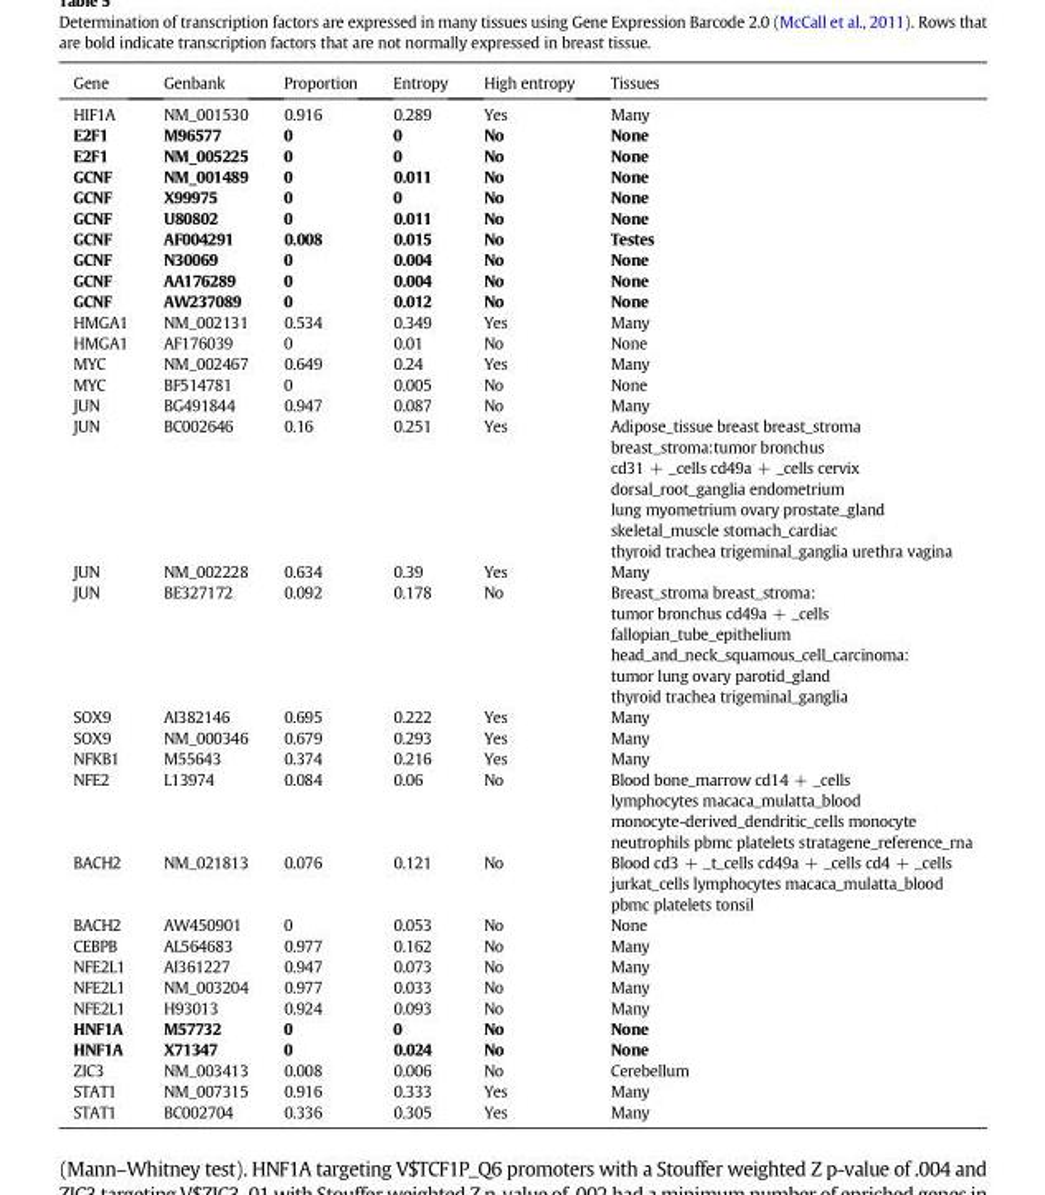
<table><thead><tr><td>Gene</td><td>Genbank</td><td>Proportion</td><td>Entropy</td><td>High entropy</td><td>Tissues</td></tr></thead><tbody><tr><td>HIF1A</td><td>NM_001530</td><td>0.916</td><td>0.289</td><td>Yes</td><td>Many</td></tr><tr><td>E2F1</td><td>M96577</td><td>0</td><td>0</td><td>No</td><td>None</td></tr><tr><td>E2F1</td><td>NM_005225</td><td>0</td><td>0</td><td>No</td><td>None</td></tr><tr><td>GCNF</td><td>NM_001489</td><td>0</td><td>0.011</td><td>No</td><td>None</td></tr><tr><td>GCNF</td><td>X99975</td><td>0</td><td>0</td><td>No</td><td>None</td></tr><tr><td>GCNF</td><td>U80802</td><td>0</td><td>0.011</td><td>No</td><td>None</td></tr><tr><td>GCNF</td><td>AF004291</td><td>0.008</td><td>0.015</td><td>No</td><td>Testes</td></tr><tr><td>GCNF</td><td>N30069</td><td>0</td><td>0.004</td><td>No</td><td>None</td></tr><tr><td>GCNF</td><td>AA176289</td><td>0</td><td>0.004</td><td>No</td><td>None</td></tr><tr><td>GCNF</td><td>AW237089</td><td>0</td><td>0.012</td><td>No</td><td>None</td></tr><tr><td>HMGA1</td><td>NM_002131</td><td>0.534</td><td>0.349</td><td>Yes</td><td>Many</td></tr><tr><td>HMGA1</td><td>AF176039</td><td>0</td><td>0.01</td><td>No</td><td>None</td></tr><tr><td>MYC</td><td>NM_002467</td><td>0.649</td><td>0.24</td><td>Yes</td><td>Many</td></tr><tr><td>MYC</td><td>BF514781</td><td>0</td><td>0.005</td><td>No</td><td>None</td></tr><tr><td>JUN</td><td>BG491844</td><td>0.947</td><td>0.087</td><td>No</td><td>Many</td></tr><tr><td>JUN</td><td>BC002646</td><td>0.16</td><td>0.251</td><td>Yes</td><td>Adipose_tissue breast breast_stroma breast_stroma:tumor bronchus cd31 + _cells cd49a + _cells cervix dorsal_root_ganglia endometrium lung myometrium ovary prostate_gland skeletal_muscle stomach_cardiac thyroid trachea trigeminal_ganglia urethra vagina</td></tr><tr><td>JUN</td><td>NM_002228</td><td>0.634</td><td>0.39</td><td>Yes</td><td>Many</td></tr><tr><td>JUN</td><td>BE327172</td><td>0.092</td><td>0.178</td><td>No</td><td>Breast_stroma breast_stroma: tumor bronchus cd49a + _cells fallopian_tube_epithelium head_and_neck_squamous_cell_carcinoma: tumor lung ovary parotid_gland thyroid trachea trigeminal_ganglia</td></tr><tr><td>SOX9</td><td>AI382146</td><td>0.695</td><td>0.222</td><td>Yes</td><td>Many</td></tr><tr><td>SOX9</td><td>NM_000346</td><td>0.679</td><td>0.293</td><td>Yes</td><td>Many</td></tr><tr><td>NFKB1</td><td>M55643</td><td>0.374</td><td>0.216</td><td>Yes</td><td>Many</td></tr><tr><td>NFE2</td><td>L13974</td><td>0.084</td><td>0.06</td><td>No</td><td>Blood bone_marrow cd14 + _cells lymphocytes macaca_mulatta_blood monocyte-derived_dendritic_cells monocyte neutrophils pbmc platelets stratagene_reference_rna</td></tr><tr><td>BACH2</td><td>NM_021813</td><td>0.076</td><td>0.121</td><td>No</td><td>Blood cd3 + _t_cells cd49a + _cells cd4 + _cells jurkat_cells lymphocytes macaca_mulatta_blood pbmc platelets tonsil</td></tr><tr><td>BACH2</td><td>AW450901</td><td>0</td><td>0.053</td><td>No</td><td>None</td></tr><tr><td>CEBPB</td><td>AL564683</td><td>0.977</td><td>0.162</td><td>No</td><td>Many</td></tr><tr><td>NFE2L1</td><td>AI361227</td><td>0.947</td><td>0.073</td><td>No</td><td>Many</td></tr><tr><td>NFE2L1</td><td>NM_003204</td><td>0.977</td><td>0.033</td><td>No</td><td>Many</td></tr><tr><td>NFE2L1</td><td>H93013</td><td>0.924</td><td>0.093</td><td>No</td><td>Many</td></tr><tr><td>HNF1A</td><td>M57732</td><td>0</td><td>0</td><td>No</td><td>None</td></tr><tr><td>HNF1A</td><td>X71347</td><td>0</td><td>0.024</td><td>No</td><td>None</td></tr><tr><td>ZIC3</td><td>NM_003413</td><td>0.008</td><td>0.006</td><td>No</td><td>Cerebellum</td></tr><tr><td>STAT1</td><td>NM_007315</td><td>0.916</td><td>0.333</td><td>Yes</td><td>Many</td></tr><tr><td>STAT1</td><td>BC002704</td><td>0.336</td><td>0.305</td><td>Yes</td><td>Many</td></tr></tbody></table>